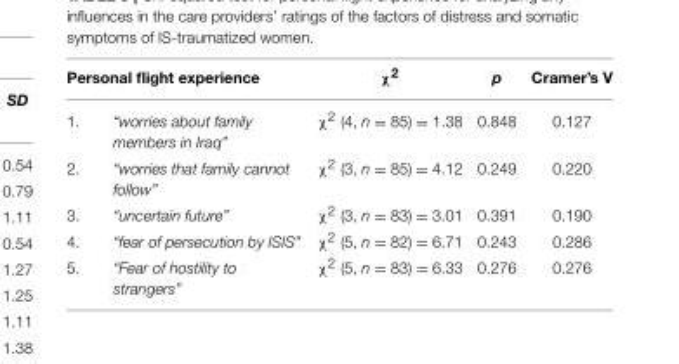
<table><thead><tr><td colspan="2">Personal flight experience</td><td rowspan="2">χ<sup>2</sup> χ<sup>2</sup> (4, n = 85) = 1.38</td><td rowspan="2">p 0.848</td><td rowspan="2">Cramer’s V 0.127</td></tr><tr><td>1.</td><td>“worries about family members in Iraq”</td></tr></thead><tbody><tr><td>2.</td><td>“worries that family cannot follow”</td><td>χ<sup>2</sup> (3, n = 85) = 4.12</td><td>0.249</td><td>0.220</td></tr><tr><td>3.</td><td>“uncertain future”</td><td>χ<sup>2</sup> (3, n = 83) = 3.01</td><td>0.391</td><td>0.190</td></tr><tr><td>4.</td><td>“fear of persecution by ISIS”</td><td>χ<sup>2</sup> (5, n = 82) = 6.71</td><td>0.243</td><td>0.286</td></tr><tr><td>5.</td><td>“Fear of hostility to strangers”</td><td>χ<sup>2</sup> (5, n = 83) = 6.33</td><td>0.276</td><td>0.276</td></tr></tbody></table>